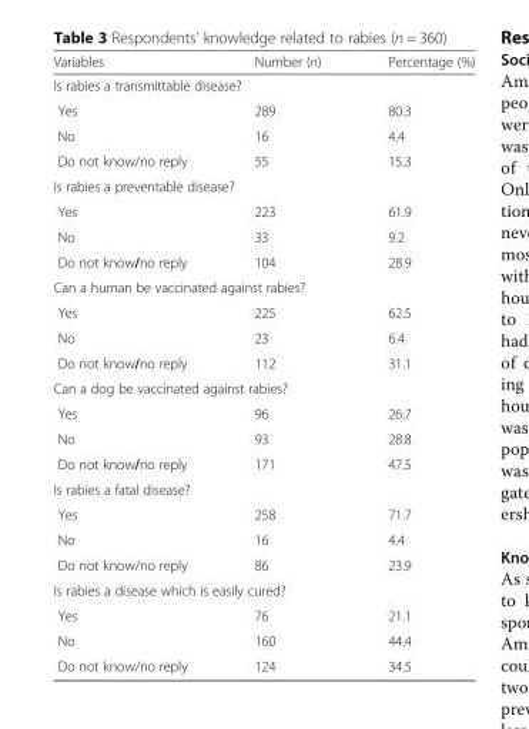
<table><thead><tr><td>Variables</td><td>Number (n)</td><td>Percentage (%)</td></tr></thead><tbody><tr><td colspan="3">Is rabies a transmittable disease?</td></tr><tr><td>Yes</td><td>289</td><td>80.3</td></tr><tr><td>No</td><td>16</td><td>4.4</td></tr><tr><td>Do not know/no reply</td><td>55</td><td>15.3</td></tr><tr><td colspan="3">Is rabies a preventable disease?</td></tr><tr><td>Yes</td><td>223</td><td>61.9</td></tr><tr><td>No</td><td>33</td><td>9.2</td></tr><tr><td>Do not know/no reply</td><td>104</td><td>28.9</td></tr><tr><td colspan="3">Can a human be vaccinated against rabies?</td></tr><tr><td>Yes</td><td>225</td><td>62.5</td></tr><tr><td>No</td><td>23</td><td>6.4</td></tr><tr><td>Do not know/no reply</td><td>112</td><td>31.1</td></tr><tr><td colspan="3">Can a dog be vaccinated against rabies?</td></tr><tr><td>Yes</td><td>96</td><td>26.7</td></tr><tr><td>No</td><td>93</td><td>28.8</td></tr><tr><td>Do not know/no reply</td><td>171</td><td>47.5</td></tr><tr><td colspan="3">Is rabies a fatal disease?</td></tr><tr><td>Yes</td><td>258</td><td>71.7</td></tr><tr><td>No</td><td>16</td><td>4.4</td></tr><tr><td>Do not know/no reply</td><td>86</td><td>23.9</td></tr><tr><td colspan="3">Is rabies a disease which is easily cured?</td></tr><tr><td>Yes</td><td>76</td><td>21.1</td></tr><tr><td>No</td><td>160</td><td>44.4</td></tr><tr><td>Do not know/no reply</td><td>124</td><td>34.5</td></tr></tbody></table>